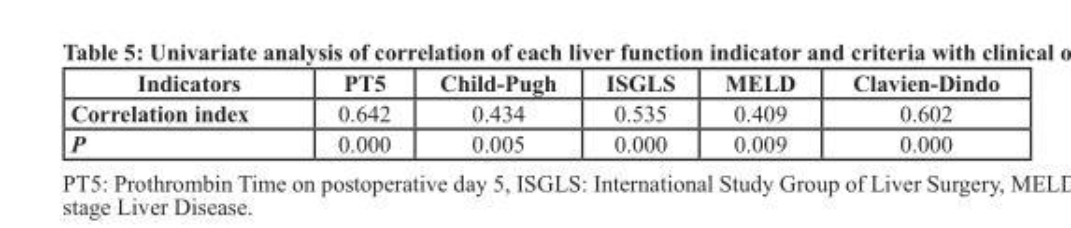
<table><thead><tr><td>Indicators</td><td>PT5</td><td>Child-Pugh</td><td>ISGLS</td><td>MELD</td><td>Clavien-Dindo</td></tr></thead><tbody><tr><td>Correlation index</td><td>0.642</td><td>0.434</td><td>0.535</td><td>0.409</td><td>0.602</td></tr><tr><td>P</td><td>0.000</td><td>0.005</td><td>0.000</td><td>0.009</td><td>0.000</td></tr></tbody></table>